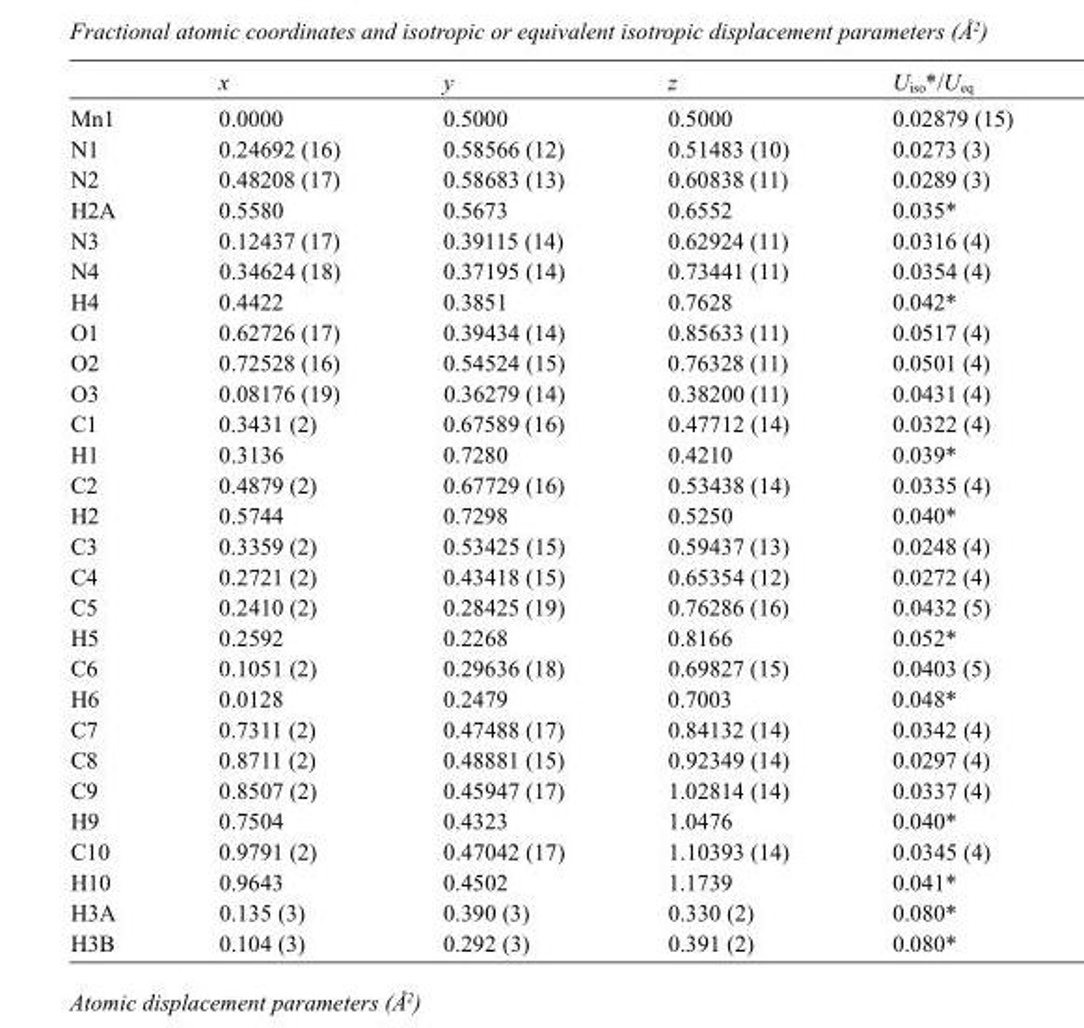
<table><thead><tr><td></td><td>x</td><td>y</td><td>z</td><td>U<sub>iso</sub>*/U<sub>eq</sub></td></tr></thead><tbody><tr><td>Mn1</td><td>0.0000</td><td>0.5000</td><td>0.5000</td><td>0.02879 (15)</td></tr><tr><td>N1</td><td>0.24692 (16)</td><td>0.58566 (12)</td><td>0.51483 (10)</td><td>0.0273 (3)</td></tr><tr><td>N2</td><td>0.48208 (17)</td><td>0.58683 (13)</td><td>0.60838 (11)</td><td>0.0289 (3)</td></tr><tr><td>H2A</td><td>0.5580</td><td>0.5673</td><td>0.6552</td><td>0.035*</td></tr><tr><td>N3</td><td>0.12437 (17)</td><td>0.39115 (14)</td><td>0.62924 (11)</td><td>0.0316 (4)</td></tr><tr><td>N4</td><td>0.34624 (18)</td><td>0.37195 (14)</td><td>0.73441 (11)</td><td>0.0354 (4)</td></tr><tr><td>H4</td><td>0.4422</td><td>0.3851</td><td>0.7628</td><td>0.042*</td></tr><tr><td>O1</td><td>0.62726 (17)</td><td>0.39434 (14)</td><td>0.85633 (11)</td><td>0.0517 (4)</td></tr><tr><td>O2</td><td>0.72528 (16)</td><td>0.54524 (15)</td><td>0.76328 (11)</td><td>0.0501 (4)</td></tr><tr><td>O3</td><td>0.08176 (19)</td><td>0.36279 (14)</td><td>0.38200 (11)</td><td>0.0431 (4)</td></tr><tr><td>C1</td><td>0.3431 (2)</td><td>0.67589 (16)</td><td>0.47712 (14)</td><td>0.0322 (4)</td></tr><tr><td>H1</td><td>0.3136</td><td>0.7280</td><td>0.4210</td><td>0.039*</td></tr><tr><td>C2</td><td>0.4879 (2)</td><td>0.67729 (16)</td><td>0.53438 (14)</td><td>0.0335 (4)</td></tr><tr><td>H2</td><td>0.5744</td><td>0.7298</td><td>0.5250</td><td>0.040*</td></tr><tr><td>C3</td><td>0.3359 (2)</td><td>0.53425 (15)</td><td>0.59437 (13)</td><td>0.0248 (4)</td></tr><tr><td>C4</td><td>0.2721 (2)</td><td>0.43418 (15)</td><td>0.65354 (12)</td><td>0.0272 (4)</td></tr><tr><td>C5</td><td>0.2410 (2)</td><td>0.28425 (19)</td><td>0.76286 (16)</td><td>0.0432 (5)</td></tr><tr><td>H5</td><td>0.2592</td><td>0.2268</td><td>0.8166</td><td>0.052*</td></tr><tr><td>C6</td><td>0.1051 (2)</td><td>0.29636 (18)</td><td>0.69827 (15)</td><td>0.0403 (5)</td></tr><tr><td>H6</td><td>0.0128</td><td>0.2479</td><td>0.7003</td><td>0.048*</td></tr><tr><td>C7</td><td>0.7311 (2)</td><td>0.47488 (17)</td><td>0.84132 (14)</td><td>0.0342 (4)</td></tr><tr><td>C8</td><td>0.8711 (2)</td><td>0.48881 (15)</td><td>0.92349 (14)</td><td>0.0297 (4)</td></tr><tr><td>C9</td><td>0.8507 (2)</td><td>0.45947 (17)</td><td>1.02814 (14)</td><td>0.0337 (4)</td></tr><tr><td>H9</td><td>0.7504</td><td>0.4323</td><td>1.0476</td><td>0.040*</td></tr><tr><td>C10</td><td>0.9791 (2)</td><td>0.47042 (17)</td><td>1.10393 (14)</td><td>0.0345 (4)</td></tr><tr><td>H10</td><td>0.9643</td><td>0.4502</td><td>1.1739</td><td>0.041*</td></tr><tr><td>H3A</td><td>0.135 (3)</td><td>0.390 (3)</td><td>0.330 (2)</td><td>0.080*</td></tr><tr><td>H3B</td><td>0.104 (3)</td><td>0.292 (3)</td><td>0.391 (2)</td><td>0.080*</td></tr></tbody></table>